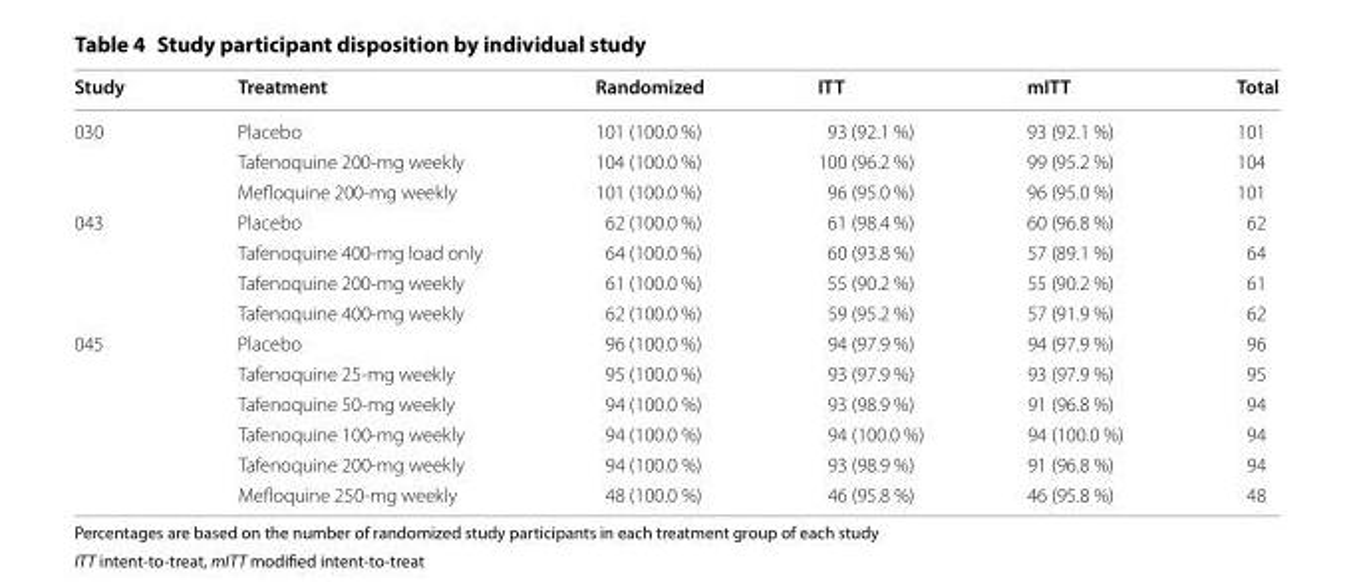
<table><thead><tr><td>Study</td><td>Treatment</td><td>Randomized</td><td>ITT</td><td>mITT</td><td>Total</td></tr></thead><tbody><tr><td rowspan="3">030</td><td>Placebo</td><td>101 (100.0 %)</td><td>93 (92.1 %)</td><td>93 (92.1 %)</td><td>101</td></tr><tr><td>Tafenoquine 200-mg weekly</td><td>104 (100.0 %)</td><td>100 (96.2 %)</td><td>99 (95.2 %)</td><td>104</td></tr><tr><td>Mefloquine 200-mg weekly</td><td>101 (100.0 %)</td><td>96 (95.0 %)</td><td>96 (95.0 %)</td><td>101</td></tr><tr><td rowspan="4">043</td><td>Placebo</td><td>62 (100.0 %)</td><td>61 (98.4 %)</td><td>60 (96.8 %)</td><td>62</td></tr><tr><td>Tafenoquine 400-mg load only</td><td>64 (100.0 %)</td><td>60 (93.8 %)</td><td>57 (89.1 %)</td><td>64</td></tr><tr><td>Tafenoquine 200-mg weekly</td><td>61 (100.0 %)</td><td>55 (90.2 %)</td><td>55 (90.2 %)</td><td>61</td></tr><tr><td>Tafenoquine 400-mg weekly</td><td>62 (100.0 %)</td><td>59 (95.2 %)</td><td>57 (91.9 %)</td><td>62</td></tr><tr><td rowspan="6">045</td><td>Placebo</td><td>96 (100.0 %)</td><td>94 (97.9 %)</td><td>94 (97.9 %)</td><td>96</td></tr><tr><td>Tafenoquine 25-mg weekly</td><td>95 (100.0 %)</td><td>93 (97.9 %)</td><td>93 (97.9 %)</td><td>95</td></tr><tr><td>Tafenoquine 50-mg weekly</td><td>94 (100.0 %)</td><td>93 (98.9 %)</td><td>91 (96.8 %)</td><td>94</td></tr><tr><td>Tafenoquine 100-mg weekly</td><td>94 (100.0 %)</td><td>94 (100.0 %)</td><td>94 (100.0 %)</td><td>94</td></tr><tr><td>Tafenoquine 200-mg weekly</td><td>94 (100.0 %)</td><td>93 (98.9 %)</td><td>91 (96.8 %)</td><td>94</td></tr><tr><td>Mefloquine 250-mg weekly</td><td>48 (100.0 %)</td><td>46 (95.8 %)</td><td>46 (95.8 %)</td><td>48</td></tr></tbody></table>